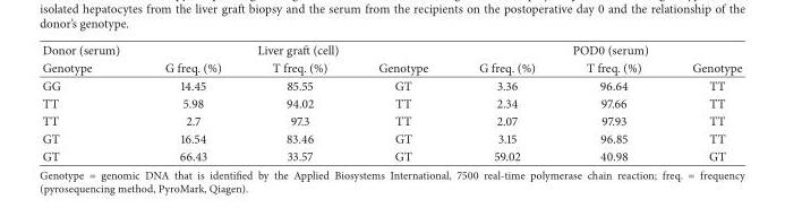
<table><thead><tr><td rowspan="2">Donor (serum) Genotype</td><td colspan="3">Liver graft (cell)</td><td colspan="3">POD0 (serum)</td></tr><tr><td>G freq. (%)</td><td>T freq. (%)</td><td>Genotype</td><td>G freq. (%)</td><td>T freq. (%)</td><td>Genotype</td></tr></thead><tbody><tr><td>GG</td><td>14.45</td><td>85.55</td><td>GT</td><td>3.36</td><td>96.64</td><td>TT</td></tr><tr><td>TT</td><td>5.98</td><td>94.02</td><td>TT</td><td>2.34</td><td>97.66</td><td>TT</td></tr><tr><td>TT</td><td>2.7</td><td>97.3</td><td>TT</td><td>2.07</td><td>97.93</td><td>TT</td></tr><tr><td>GT</td><td>16.54</td><td>83.46</td><td>GT</td><td>3.15</td><td>96.85</td><td>TT</td></tr><tr><td>GT</td><td>66.43</td><td>33.57</td><td>GT</td><td>59.02</td><td>40.98</td><td>GT</td></tr></tbody></table>